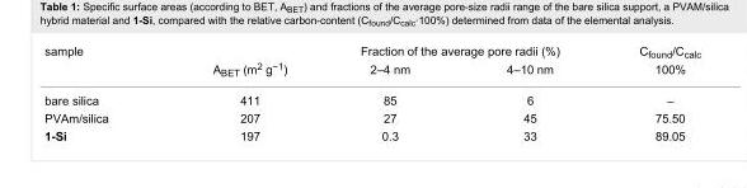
<table><tbody><tr><td rowspan="2">sample</td><td></td><td colspan="2">Fraction of the average pore radii (%)</td><td>C<sub>found</sub>/C<sub>calc</sub></td></tr><tr><td>A<sub>BET</sub> (m<sup>2</sup> g<sup>−1</sup>)</td><td>2–4 nm</td><td>4–10 nm</td><td>100%</td></tr><tr><td>bare silica</td><td>411</td><td>85</td><td>6</td><td>–</td></tr><tr><td>PVAm/silica</td><td>207</td><td>27</td><td>45</td><td>75.50</td></tr><tr><td>1-Si</td><td>197</td><td>0.3</td><td>33</td><td>89.05</td></tr></tbody></table>